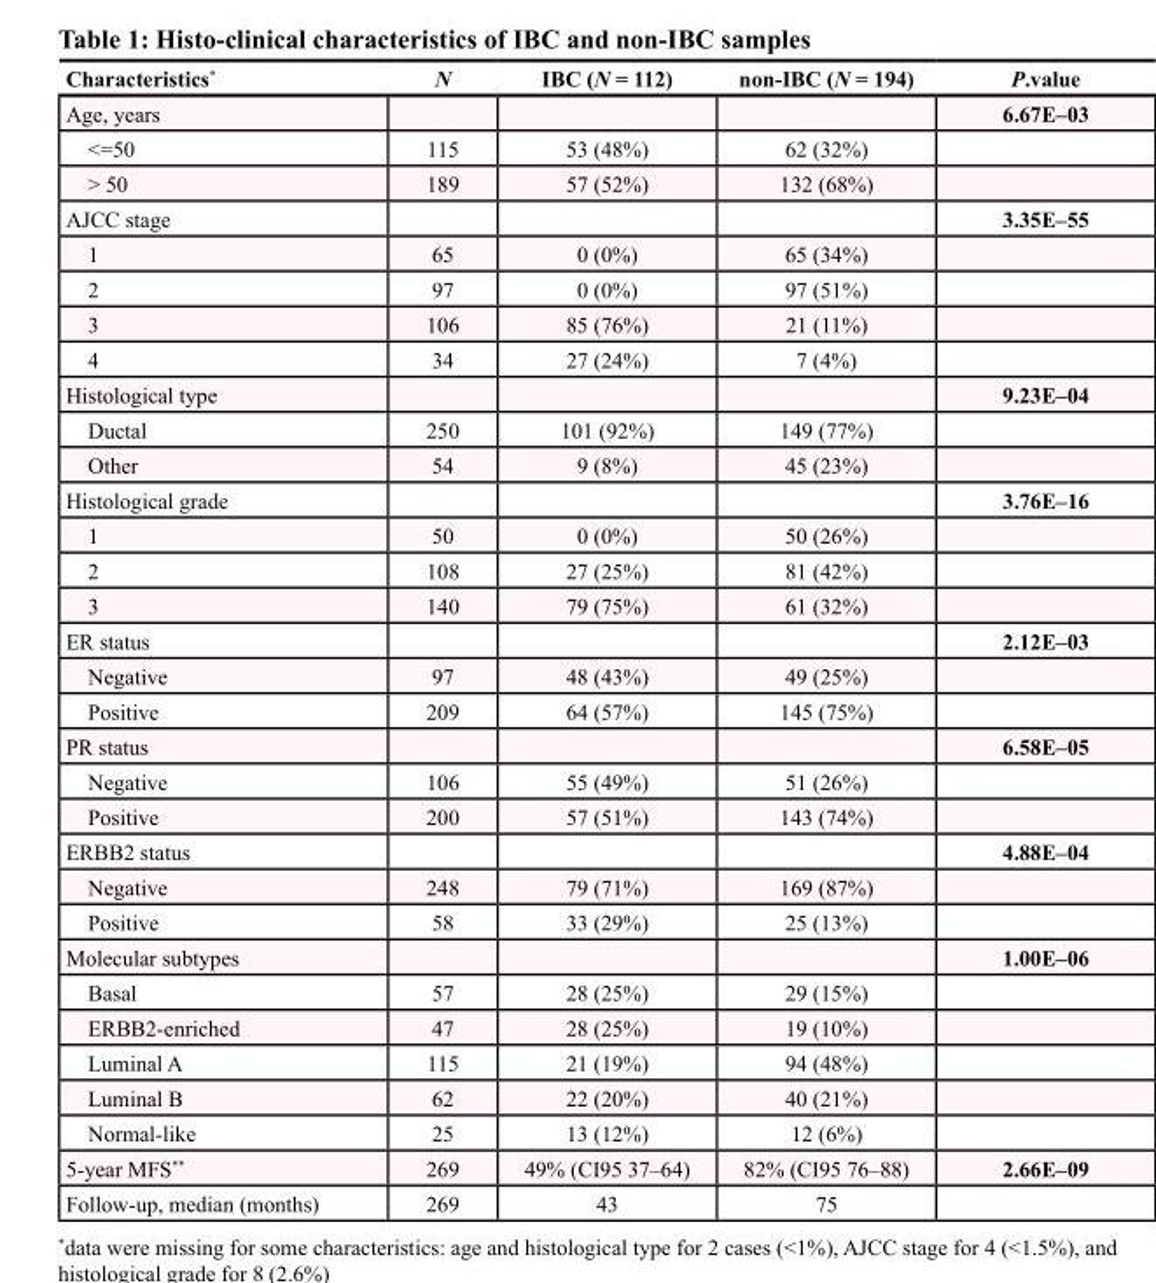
<table><thead><tr><td>Characteristics*</td><td>N</td><td>IBC (N = 112)</td><td>non-IBC (N = 194)</td><td>P.value</td></tr></thead><tbody><tr><td>Age, years</td><td></td><td></td><td></td><td>6.67E–03</td></tr><tr><td>&lt;=50</td><td>115</td><td>53 (48%)</td><td>62 (32%)</td><td></td></tr><tr><td>&gt; 50</td><td>189</td><td>57 (52%)</td><td>132 (68%)</td><td></td></tr><tr><td>AJCC stage</td><td></td><td></td><td></td><td>3.35E–55</td></tr><tr><td>1</td><td>65</td><td>0 (0%)</td><td>65 (34%)</td><td></td></tr><tr><td>2</td><td>97</td><td>0 (0%)</td><td>97 (51%)</td><td></td></tr><tr><td>3</td><td>106</td><td>85 (76%)</td><td>21 (11%)</td><td></td></tr><tr><td>4</td><td>34</td><td>27 (24%)</td><td>7 (4%)</td><td></td></tr><tr><td>Histological type</td><td></td><td></td><td></td><td>9.23E–04</td></tr><tr><td>Ductal</td><td>250</td><td>101 (92%)</td><td>149 (77%)</td><td></td></tr><tr><td>Other</td><td>54</td><td>9 (8%)</td><td>45 (23%)</td><td></td></tr><tr><td>Histological grade</td><td></td><td></td><td></td><td>3.76E–16</td></tr><tr><td>1</td><td>50</td><td>0 (0%)</td><td>50 (26%)</td><td></td></tr><tr><td>2</td><td>108</td><td>27 (25%)</td><td>81 (42%)</td><td></td></tr><tr><td>3</td><td>140</td><td>79 (75%)</td><td>61 (32%)</td><td></td></tr><tr><td>ER status</td><td></td><td></td><td></td><td>2.12E–03</td></tr><tr><td>Negative</td><td>97</td><td>48 (43%)</td><td>49 (25%)</td><td></td></tr><tr><td>Positive</td><td>209</td><td>64 (57%)</td><td>145 (75%)</td><td></td></tr><tr><td>PR status</td><td></td><td></td><td></td><td>6.58E–05</td></tr><tr><td>Negative</td><td>106</td><td>55 (49%)</td><td>51 (26%)</td><td></td></tr><tr><td>Positive</td><td>200</td><td>57 (51%)</td><td>143 (74%)</td><td></td></tr><tr><td>ERBB2 status</td><td></td><td></td><td></td><td>4.88E–04</td></tr><tr><td>Negative</td><td>248</td><td>79 (71%)</td><td>169 (87%)</td><td></td></tr><tr><td>Positive</td><td>58</td><td>33 (29%)</td><td>25 (13%)</td><td></td></tr><tr><td>Molecular subtypes</td><td></td><td></td><td></td><td>1.00E–06</td></tr><tr><td>Basal</td><td>57</td><td>28 (25%)</td><td>29 (15%)</td><td></td></tr><tr><td>ERBB2-enriched</td><td>47</td><td>28 (25%)</td><td>19 (10%)</td><td></td></tr><tr><td>Luminal A</td><td>115</td><td>21 (19%)</td><td>94 (48%)</td><td></td></tr><tr><td>Luminal B</td><td>62</td><td>22 (20%)</td><td>40 (21%)</td><td></td></tr><tr><td>Normal-like</td><td>25</td><td>13 (12%)</td><td>12 (6%)</td><td></td></tr><tr><td>5-year MFS**</td><td>269</td><td>49% (CI95 37–64)</td><td>82% (CI95 76–88)</td><td>2.66E–09</td></tr><tr><td>Follow-up, median (months)</td><td>269</td><td>43</td><td>75</td><td></td></tr></tbody></table>